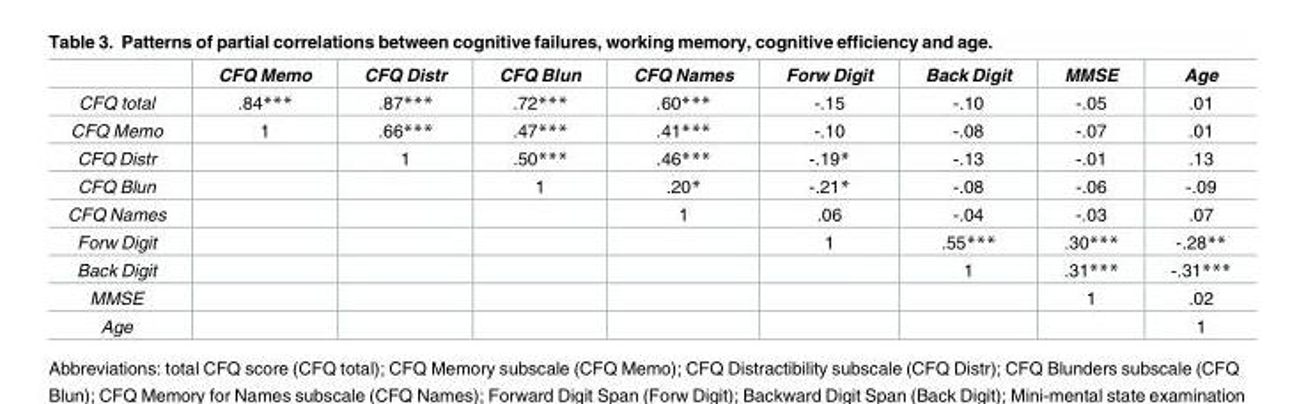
<table><thead><tr><td></td><td>CFQ Memo</td><td>CFQ Distr</td><td>CFQ Blun</td><td>CFQ Names</td><td>Forw Digit</td><td>Back Digit</td><td>MMSE</td><td>Age</td></tr></thead><tbody><tr><td>CFQ total</td><td>.84***</td><td>.87***</td><td>.72***</td><td>.60***</td><td>-.15</td><td>-.10</td><td>-.05</td><td>.01</td></tr><tr><td>CFQ Memo</td><td>1</td><td>.66***</td><td>.47***</td><td>.41***</td><td>-.10</td><td>-.08</td><td>-.07</td><td>.01</td></tr><tr><td>CFQ Distr</td><td></td><td>1</td><td>.50***</td><td>.46***</td><td>-.19*</td><td>-.13</td><td>-.01</td><td>.13</td></tr><tr><td>CFQ Blun</td><td></td><td></td><td>1</td><td>.20*</td><td>-.21*</td><td>-.08</td><td>-.06</td><td>-.09</td></tr><tr><td>CFQ Names</td><td></td><td></td><td></td><td>1</td><td>.06</td><td>-.04</td><td>-.03</td><td>.07</td></tr><tr><td>Forw Digit</td><td></td><td></td><td></td><td></td><td>1</td><td>.55***</td><td>.30***</td><td>-.28**</td></tr><tr><td>Back Digit</td><td></td><td></td><td></td><td></td><td></td><td>1</td><td>.31***</td><td>-.31***</td></tr><tr><td>MMSE</td><td></td><td></td><td></td><td></td><td></td><td></td><td>1</td><td>.02</td></tr><tr><td>Age</td><td></td><td></td><td></td><td></td><td></td><td></td><td></td><td>1</td></tr></tbody></table>